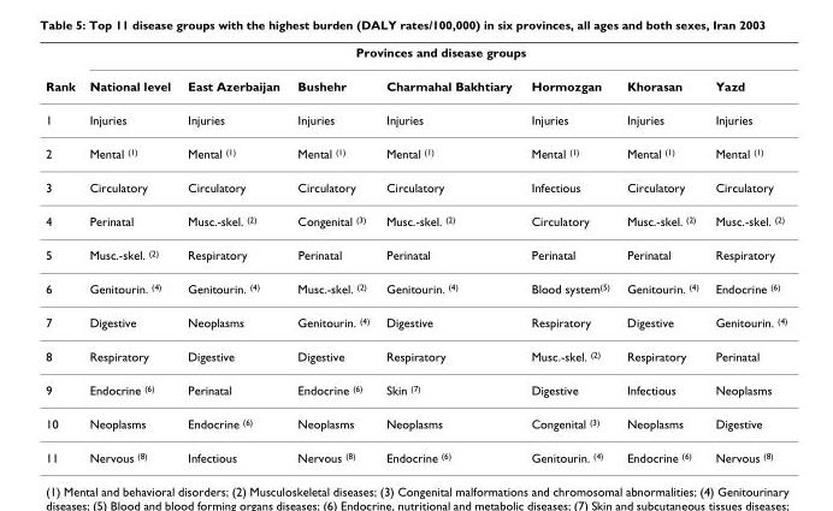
<table><thead><tr><td rowspan="2">Rank</td><td colspan="7">Provinces and disease groups</td></tr><tr><td>National level</td><td>East Azerbaijan</td><td>Bushehr</td><td>Charmahal Bakhtiary</td><td>Hormozgan</td><td>Khorasan</td><td>Yazd</td></tr></thead><tbody><tr><td>1</td><td>Injuries</td><td>Injuries</td><td>Injuries</td><td>Injuries</td><td>Injuries</td><td>Injuries</td><td>Injuries</td></tr><tr><td>2</td><td>Mental <sup>(1)</sup></td><td>Mental <sup>(1)</sup></td><td>Mental <sup>(1)</sup></td><td>Mental <sup>(1)</sup></td><td>Mental <sup>(1)</sup></td><td>Mental <sup>(1)</sup></td><td>Mental <sup>(1)</sup></td></tr><tr><td>3</td><td>Circulatory</td><td>Circulatory</td><td>Circulatory</td><td>Circulatory</td><td>Infectious</td><td>Circulatory</td><td>Circulatory</td></tr><tr><td>4</td><td>Perinatal</td><td>Musc.-skel. <sup>(2)</sup></td><td>Congenital <sup>(3)</sup></td><td>Musc.-skel. <sup>(2)</sup></td><td>Circulatory</td><td>Musc.-skel. <sup>(2)</sup></td><td>Musc.-skel. <sup>(2)</sup></td></tr><tr><td>5</td><td>Musc.-skel. <sup>(2)</sup></td><td>Respiratory</td><td>Perinatal</td><td>Perinatal</td><td>Perinatal</td><td>Perinatal</td><td>Respiratory</td></tr><tr><td>6</td><td>Genitourin. <sup>(4)</sup></td><td>Genitourin. <sup>(4)</sup></td><td>Musc.-skel. <sup>(2)</sup></td><td>Genitourin. <sup>(4)</sup></td><td>Blood system<sup>(5)</sup></td><td>Genitourin. <sup>(4)</sup></td><td>Endocrine <sup>(6)</sup></td></tr><tr><td>7</td><td>Digestive</td><td>Neoplasms</td><td>Genitourin. <sup>(4)</sup></td><td>Digestive</td><td>Respiratory</td><td>Digestive</td><td>Genitourin. <sup>(4)</sup></td></tr><tr><td>8</td><td>Respiratory</td><td>Digestive</td><td>Digestive</td><td>Respiratory</td><td>Musc.-skel. <sup>(2)</sup></td><td>Respiratory</td><td>Perinatal</td></tr><tr><td>9</td><td>Endocrine <sup>(6)</sup></td><td>Perinatal</td><td>Endocrine <sup>(6)</sup></td><td>Skin <sup>(7)</sup></td><td>Digestive</td><td>Infectious</td><td>Neoplasms</td></tr><tr><td>10</td><td>Neoplasms</td><td>Endocrine <sup>(6)</sup></td><td>Neoplasms</td><td>Neoplasms</td><td>Congenital <sup>(3)</sup></td><td>Neoplasms</td><td>Digestive</td></tr><tr><td>11</td><td>Nervous <sup>(8)</sup></td><td>Infectious</td><td>Nervous <sup>(8)</sup></td><td>Endocrine <sup>(6)</sup></td><td>Genitourin. <sup>(4)</sup></td><td>Endocrine <sup>(6)</sup></td><td>Nervous <sup>(8)</sup></td></tr></tbody></table>